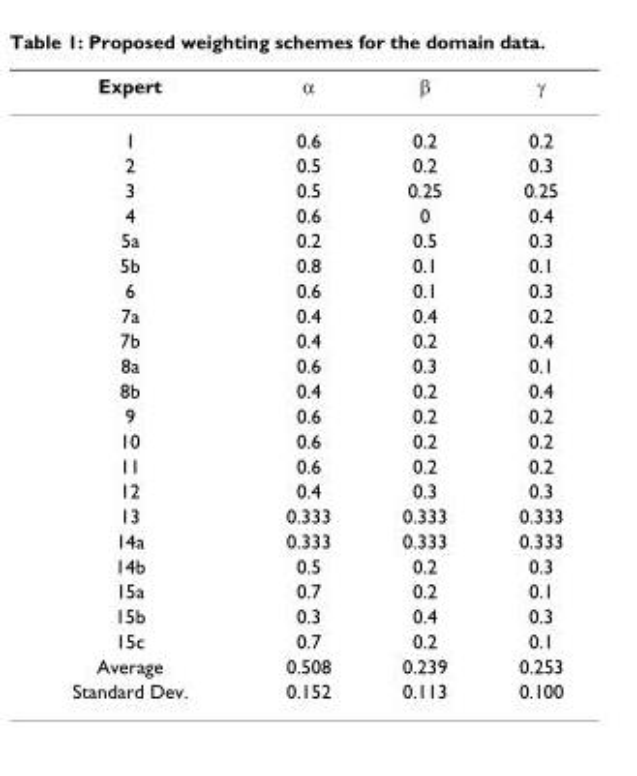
<table><thead><tr><td>Expert</td><td>α</td><td>β</td><td>γ</td></tr></thead><tbody><tr><td>1</td><td>0.6</td><td>0.2</td><td>0.2</td></tr><tr><td>2</td><td>0.5</td><td>0.2</td><td>0.3</td></tr><tr><td>3</td><td>0.5</td><td>0.25</td><td>0.25</td></tr><tr><td>4</td><td>0.6</td><td>0</td><td>0.4</td></tr><tr><td>5a</td><td>0.2</td><td>0.5</td><td>0.3</td></tr><tr><td>5b</td><td>0.8</td><td>0.1</td><td>0.1</td></tr><tr><td>6</td><td>0.6</td><td>0.1</td><td>0.3</td></tr><tr><td>7a</td><td>0.4</td><td>0.4</td><td>0.2</td></tr><tr><td>7b</td><td>0.4</td><td>0.2</td><td>0.4</td></tr><tr><td>8a</td><td>0.6</td><td>0.3</td><td>0.1</td></tr><tr><td>8b</td><td>0.4</td><td>0.2</td><td>0.4</td></tr><tr><td>9</td><td>0.6</td><td>0.2</td><td>0.2</td></tr><tr><td>10</td><td>0.6</td><td>0.2</td><td>0.2</td></tr><tr><td>11</td><td>0.6</td><td>0.2</td><td>0.2</td></tr><tr><td>12</td><td>0.4</td><td>0.3</td><td>0.3</td></tr><tr><td>13</td><td>0.333</td><td>0.333</td><td>0.333</td></tr><tr><td>14a</td><td>0.333</td><td>0.333</td><td>0.333</td></tr><tr><td>14b</td><td>0.5</td><td>0.2</td><td>0.3</td></tr><tr><td>15a</td><td>0.7</td><td>0.2</td><td>0.1</td></tr><tr><td>15b</td><td>0.3</td><td>0.4</td><td>0.3</td></tr><tr><td>15c</td><td>0.7</td><td>0.2</td><td>0.1</td></tr><tr><td>Average</td><td>0.508</td><td>0.239</td><td>0.253</td></tr><tr><td>Standard Dev.</td><td>0.152</td><td>0.113</td><td>0.100</td></tr></tbody></table>